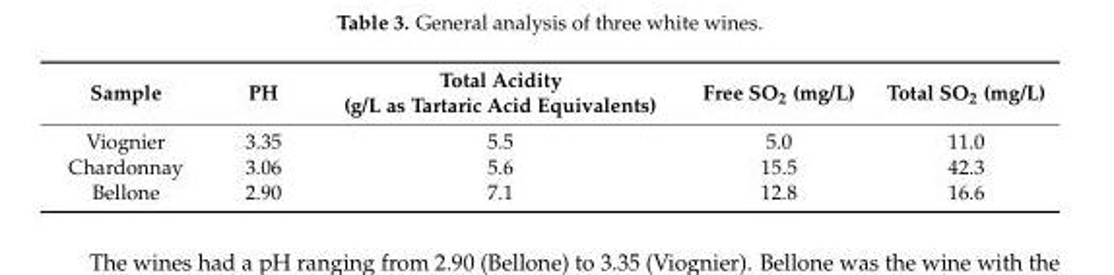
<table><thead><tr><td>Sample</td><td>PH</td><td>Total Acidity (g/L as Tartaric Acid Equivalents)</td><td>Free SO<sub>2</sub> (mg/L)</td><td>Total SO<sub>2</sub> (mg/L)</td></tr></thead><tbody><tr><td>Viognier</td><td>3.35</td><td>5.5</td><td>5.0</td><td>11.0</td></tr><tr><td>Chardonnay</td><td>3.06</td><td>5.6</td><td>15.5</td><td>42.3</td></tr><tr><td>Bellone</td><td>2.90</td><td>7.1</td><td>12.8</td><td>16.6</td></tr></tbody></table>